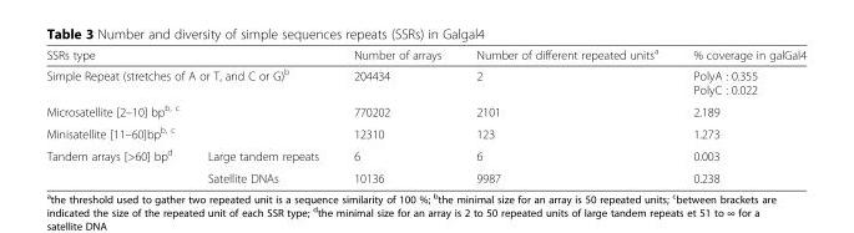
<table><thead><tr><td colspan="2">SSRs type</td><td>Number of arrays</td><td>Number of different repeated units<sup>a</sup></td><td>% coverage in galGal4</td></tr></thead><tbody><tr><td colspan="2">Simple Repeat (stretches of A or T, and C or G)<sup>b</sup></td><td>204434</td><td>2</td><td>PolyA : 0.355 PolyC : 0.022</td></tr><tr><td colspan="2">Microsatellite [2–10] bp<sup>b, c</sup></td><td>770202</td><td>2101</td><td>2.189</td></tr><tr><td colspan="2">Minisatellite [11–60]bp<sup>b, c</sup></td><td>12310</td><td>123</td><td>1.273</td></tr><tr><td rowspan="2">Tandem arrays [&gt;60] bp<sup>d</sup></td><td>Large tandem repeats</td><td>6</td><td>6</td><td>0.003</td></tr><tr><td>Satellite DNAs</td><td>10136</td><td>9987</td><td>0.238</td></tr></tbody></table>